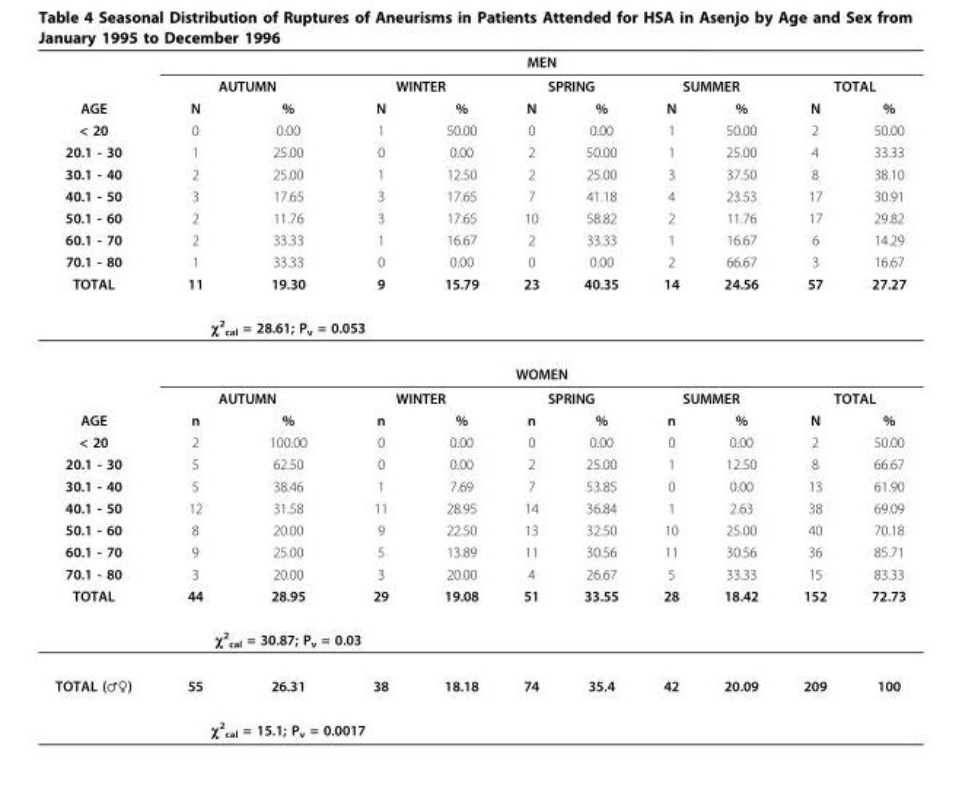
<table><thead><tr><td rowspan="12">AGE &lt; 20 20.1 - 30 30.1 - 40 40.1 - 50 50.1 - 60 60.1 - 70 70.1 - 80 TOTAL</td><td colspan="10">MEN</td></tr><tr><td colspan="2">AUTUMN</td><td colspan="2">WINTER</td><td colspan="2">SPRING</td><td colspan="2">SUMMER</td><td colspan="2">TOTAL</td></tr><tr><td rowspan="9">N 0 1 2 3 2 2 1 11</td><td rowspan="9">% 0.00 25.00 25.00 17.65 11.76 33.33 33.33 19.30</td><td rowspan="9">N 1 0 1 3 3 1 0 9</td><td rowspan="10">% 50.00 0.00 12.50 17.65 17.65 16.67 0.00 15.79</td><td rowspan="10">N 0 2 2 7 10 2 0 23</td><td rowspan="10">% 0.00 50.00 25.00 41.18 58.82 33.33 0.00 40.35</td><td rowspan="10">N 1 1 3 4 2 1 2 14</td><td rowspan="10">% 50.00 25.00 37.50 23.53 11.76 16.67 66.67 24.56</td><td rowspan="10">N 2 4 8 17 17 6 3 57</td><td rowspan="10">% 50.00 33.33 38.10 30.91 29.82 14.29 16.67 27.27</td></tr><tr></tr><tr></tr><tr></tr><tr></tr><tr></tr><tr></tr><tr></tr><tr></tr><tr><td colspan="3">χ<sup>2</sup> <sub>cal</sub> = 28.61; P<sub>v</sub> = 0.053</td></tr></thead><tbody><tr><td></td><td colspan="10">WOMEN</td></tr><tr><td></td><td colspan="2">AUTUMN</td><td colspan="2">WINTER</td><td colspan="2">SPRING</td><td colspan="2">SUMMER</td><td colspan="2">TOTAL</td></tr><tr><td>AGE</td><td>n</td><td>%</td><td>n</td><td>%</td><td>n</td><td>%</td><td>n</td><td>%</td><td>N</td><td>%</td></tr><tr><td>&lt; 20</td><td>2</td><td>100.00</td><td>0</td><td>0.00</td><td>0</td><td>0.00</td><td>0</td><td>0.00</td><td>2</td><td>50.00</td></tr><tr><td>20.1 - 30</td><td>5</td><td>62.50</td><td>0</td><td>0.00</td><td>2</td><td>25.00</td><td>1</td><td>12.50</td><td>8</td><td>66.67</td></tr><tr><td>30.1 - 40</td><td>5</td><td>38.46</td><td>1</td><td>7.69</td><td>7</td><td>53.85</td><td>0</td><td>0.00</td><td>13</td><td>61.90</td></tr><tr><td>40.1 - 50</td><td>12</td><td>31.58</td><td>11</td><td>28.95</td><td>14</td><td>36.84</td><td>1</td><td>2.63</td><td>38</td><td>69.09</td></tr><tr><td>50.1 - 60</td><td>8</td><td>20.00</td><td>9</td><td>22.50</td><td>13</td><td>32.50</td><td>10</td><td>25.00</td><td>40</td><td>70.18</td></tr><tr><td>60.1 - 70</td><td>9</td><td>25.00</td><td>5</td><td>13.89</td><td>11</td><td>30.56</td><td>11</td><td>30.56</td><td>36</td><td>85.71</td></tr><tr><td>70.1 - 80</td><td>3</td><td>20.00</td><td>3</td><td>20.00</td><td>4</td><td>26.67</td><td>5</td><td>33.33</td><td>15</td><td>83.33</td></tr><tr><td rowspan="2">TOTAL</td><td>44</td><td>28.95</td><td>29</td><td>19.08</td><td>51</td><td>33.55</td><td>28</td><td>18.42</td><td>152</td><td>72.73</td></tr><tr><td colspan="3">χ<sup>2</sup> <sub>cal</sub> = 30.87; P<sub>v</sub> = 0.03</td><td></td><td></td><td></td><td></td><td></td><td></td><td></td></tr><tr><td rowspan="2">TOTAL (♂♀)</td><td>55</td><td>26.31</td><td>38</td><td>18.18</td><td>74</td><td>35.4</td><td>42</td><td>20.09</td><td>209</td><td>100</td></tr><tr><td colspan="3">χ<sup>2</sup> <sub>cal</sub> = 15.1; P<sub>v</sub> = 0.0017</td><td></td><td></td><td></td><td></td><td></td><td></td><td></td></tr></tbody></table>